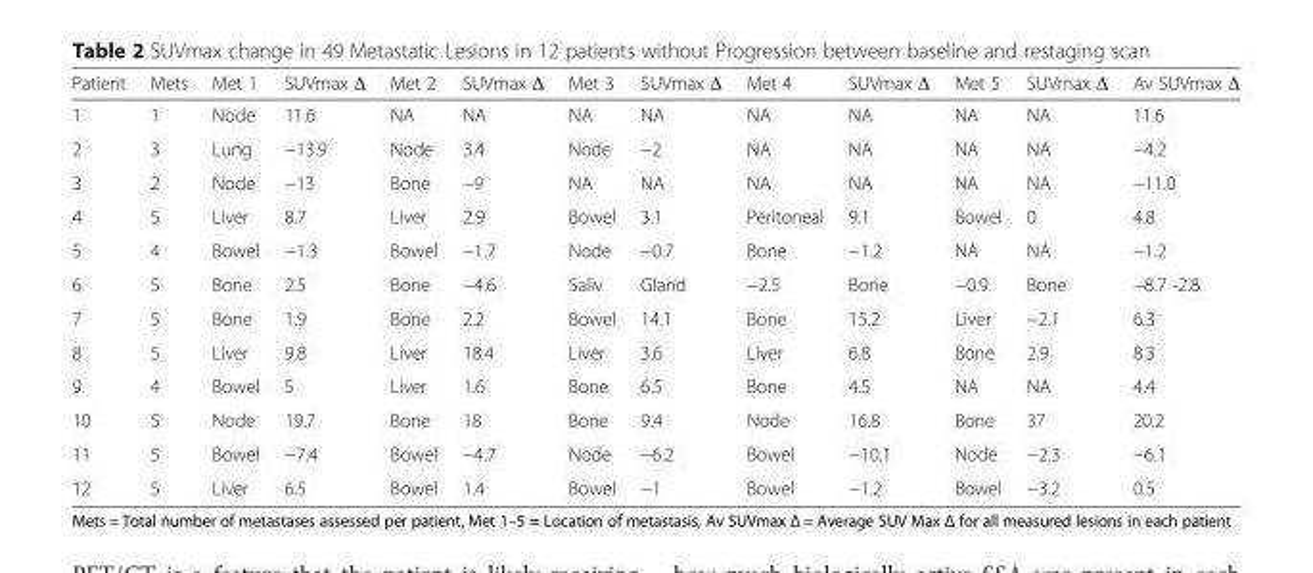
<table><thead><tr><td>Patient</td><td>Mets</td><td>Met 1</td><td>SUVmax Δ</td><td>Met 2</td><td>SUVmax Δ</td><td>Met 3</td><td>SUVmax Δ</td><td>Met 4</td><td>SUVmax Δ</td><td>Met 5</td><td>SUVmax Δ</td><td>Av SUVmax Δ</td></tr></thead><tbody><tr><td>1</td><td>1</td><td>Node</td><td>11.6</td><td>NA</td><td>NA</td><td>NA</td><td>NA</td><td>NA</td><td>NA</td><td>NA</td><td>NA</td><td>11.6</td></tr><tr><td>2</td><td>3</td><td>Lung</td><td>−13.9</td><td>Node</td><td>3.4</td><td>Node</td><td>−2</td><td>NA</td><td>NA</td><td>NA</td><td>NA</td><td>−4.2</td></tr><tr><td>3</td><td>2</td><td>Node</td><td>−13</td><td>Bone</td><td>−9</td><td>NA</td><td>NA</td><td>NA</td><td>NA</td><td>NA</td><td>NA</td><td>−11.0</td></tr><tr><td>4</td><td>5</td><td>Liver</td><td>8.7</td><td>Liver</td><td>2.9</td><td>Bowel</td><td>3.1</td><td>Peritoneal</td><td>9.1</td><td>Bowel</td><td>0</td><td>4.8</td></tr><tr><td>5</td><td>4</td><td>Bowel</td><td>−1.3</td><td>Bowel</td><td>−1.7</td><td>Node</td><td>−0.7</td><td>Bone</td><td>−1.2</td><td>NA</td><td>NA</td><td>−1.2</td></tr><tr><td>6</td><td>5</td><td>Bone</td><td>2.5</td><td>Bone</td><td>−4.6</td><td>Saliv</td><td>Gland</td><td>−2.5</td><td>Bone</td><td>−0.9</td><td>Bone</td><td>−8.7 -2.8</td></tr><tr><td>7</td><td>5</td><td>Bone</td><td>1.9</td><td>Bone</td><td>2.2</td><td>Bowel</td><td>14.1</td><td>Bone</td><td>15.2</td><td>Liver</td><td>−2.1</td><td>6.3</td></tr><tr><td>8</td><td>5</td><td>Liver</td><td>9.8</td><td>Liver</td><td>18.4</td><td>Liver</td><td>3.6</td><td>Liver</td><td>6.8</td><td>Bone</td><td>2.9</td><td>8.3</td></tr><tr><td>9</td><td>4</td><td>Bowel</td><td>5</td><td>Liver</td><td>1.6</td><td>Bone</td><td>6.5</td><td>Bone</td><td>4.5</td><td>NA</td><td>NA</td><td>4.4</td></tr><tr><td>10</td><td>5</td><td>Node</td><td>19.7</td><td>Bone</td><td>18</td><td>Bone</td><td>9.4</td><td>Node</td><td>16.8</td><td>Bone</td><td>37</td><td>20.2</td></tr><tr><td>11</td><td>5</td><td>Bowel</td><td>−7.4</td><td>Bowel</td><td>−4.7</td><td>Node</td><td>−6.2</td><td>Bowel</td><td>−10.1</td><td>Node</td><td>−2.3</td><td>−6.1</td></tr><tr><td>12</td><td>5</td><td>Liver</td><td>6.5</td><td>Bowel</td><td>1.4</td><td>Bowel</td><td>−1</td><td>Bowel</td><td>−1.2</td><td>Bowel</td><td>−3.2</td><td>0.5</td></tr></tbody></table>